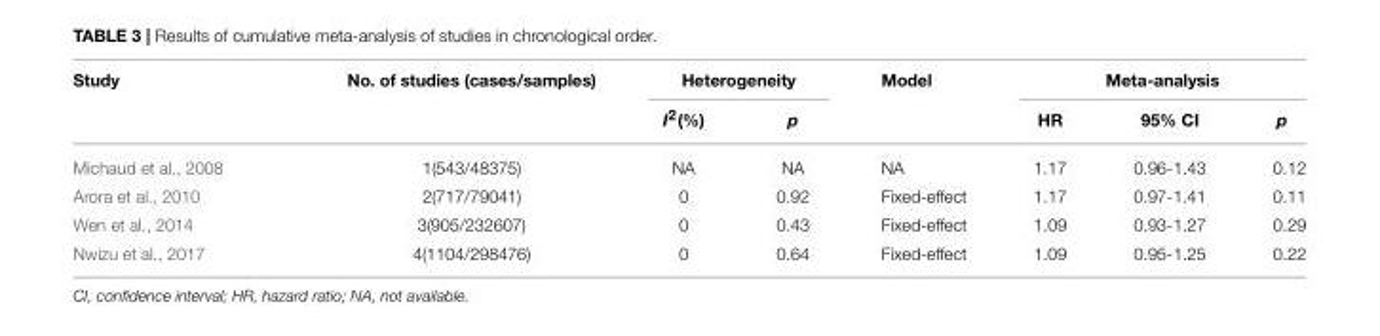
<table><thead><tr><td rowspan="2">Study</td><td rowspan="2">No. of studies (cases/samples)</td><td colspan="2">Heterogeneity</td><td rowspan="2">Model</td><td colspan="3">Meta-analysis</td></tr><tr><td>I<sup>2</sup>(%)</td><td>p</td><td>HR</td><td>95% CI</td><td>p</td></tr></thead><tbody><tr><td>Michaud et al., 2008</td><td>1(543/48375)</td><td>NA</td><td>NA</td><td>NA</td><td>1.17</td><td>0.96-1.43</td><td>0.12</td></tr><tr><td>Arora et al., 2010</td><td>2(717/79041)</td><td>0</td><td>0.92</td><td>Fixed-effect</td><td>1.17</td><td>0.97-1.41</td><td>0.11</td></tr><tr><td>Wen et al., 2014</td><td>3(905/232607)</td><td>0</td><td>0.43</td><td>Fixed-effect</td><td>1.09</td><td>0.93-1.27</td><td>0.29</td></tr><tr><td>Nwizu et al., 2017</td><td>4(1104/298476)</td><td>0</td><td>0.64</td><td>Fixed-effect</td><td>1.09</td><td>0.95-1.25</td><td>0.22</td></tr></tbody></table>